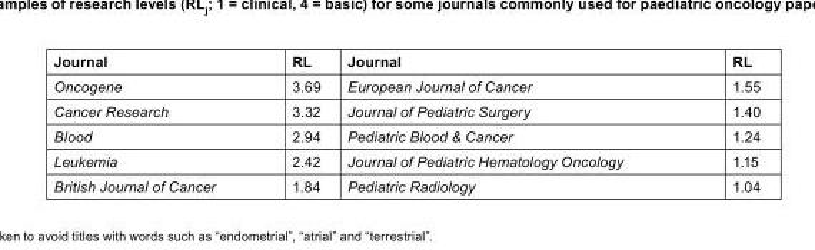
<table><thead><tr><td>Journal</td><td>RL</td><td>Journal</td><td>RL</td></tr></thead><tbody><tr><td>Oncogene</td><td>3.69</td><td>European Journal of Cancer</td><td>1.55</td></tr><tr><td>Cancer Research</td><td>3.32</td><td>Journal of Pediatric Surgery</td><td>1.40</td></tr><tr><td>Blood</td><td>2.94</td><td>Pediatric Blood &amp; Cancer</td><td>1.24</td></tr><tr><td>Leukemia</td><td>2.42</td><td>Journal of Pediatric Hematology Oncology</td><td>1.15</td></tr><tr><td>British Journal of Cancer</td><td>1.84</td><td>Pediatric Radiology</td><td>1.04</td></tr></tbody></table>